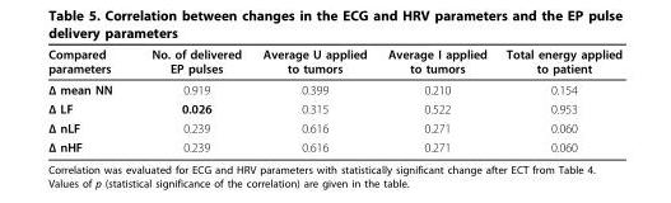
<table><thead><tr><td>Compared parameters</td><td>No. of delivered EP pulses</td><td>Average U applied to tumors</td><td>Average I applied to tumors</td><td>Total energy applied to patient</td></tr></thead><tbody><tr><td>Δ mean NN</td><td>0.919</td><td>0.399</td><td>0.210</td><td>0.154</td></tr><tr><td>Δ LF</td><td>0.026</td><td>0.315</td><td>0.522</td><td>0.953</td></tr><tr><td>Δ nLF</td><td>0.239</td><td>0.616</td><td>0.271</td><td>0.060</td></tr><tr><td>Δ nHF</td><td>0.239</td><td>0.616</td><td>0.271</td><td>0.060</td></tr></tbody></table>